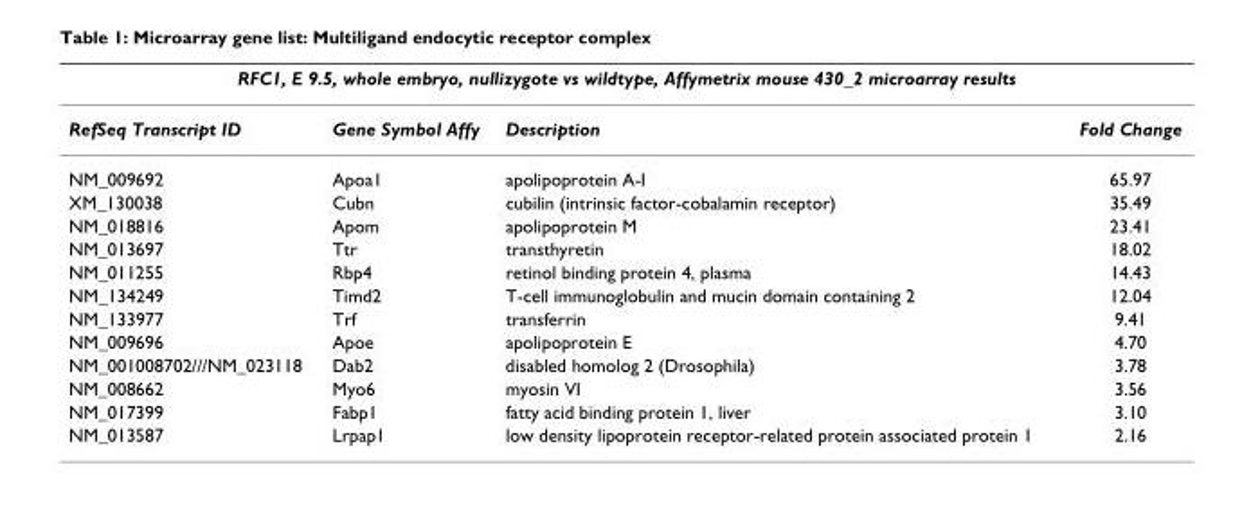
<table><thead><tr><td colspan="4">RFC1, E 9.5, whole embryo, nullizygote vs wildtype, Affymetrix mouse 430_2 microarray results</td></tr><tr><td>RefSeq Transcript ID</td><td>Gene Symbol Affy</td><td>Description</td><td>Fold Change</td></tr></thead><tbody><tr><td>NM_009692</td><td>Apoa1</td><td>apolipoprotein A-I</td><td>65.97</td></tr><tr><td>XM_130038</td><td>Cubn</td><td>cubilin (intrinsic factor-cobalamin receptor)</td><td>35.49</td></tr><tr><td>NM_018816</td><td>Apom</td><td>apolipoprotein M</td><td>23.41</td></tr><tr><td>NM_013697</td><td>Ttr</td><td>transthyretin</td><td>18.02</td></tr><tr><td>NM_011255</td><td>Rbp4</td><td>retinol binding protein 4, plasma</td><td>14.43</td></tr><tr><td>NM_134249</td><td>Timd2</td><td>T-cell immunoglobulin and mucin domain containing 2</td><td>12.04</td></tr><tr><td>NM_133977</td><td>Trf</td><td>transferrin</td><td>9.41</td></tr><tr><td>NM_009696</td><td>Apoe</td><td>apolipoprotein E</td><td>4.70</td></tr><tr><td>NM_001008702///NM_023118</td><td>Dab2</td><td>disabled homolog 2 (Drosophila)</td><td>3.78</td></tr><tr><td>NM_008662</td><td>Myo6</td><td>myosin VI</td><td>3.56</td></tr><tr><td>NM_017399</td><td>Fabp1</td><td>fatty acid binding protein 1, liver</td><td>3.10</td></tr><tr><td>NM_013587</td><td>Lrpap1</td><td>low density lipoprotein receptor-related protein associated protein 1</td><td>2.16</td></tr></tbody></table>